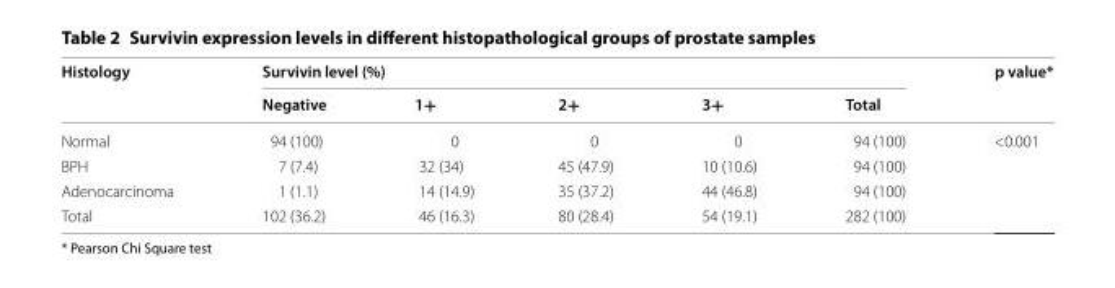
<table><thead><tr><td rowspan="2">Histology</td><td colspan="5">Survivin level (%)</td><td rowspan="2">p value*</td></tr><tr><td>Negative</td><td>1+</td><td>2+</td><td>3+</td><td>Total</td></tr></thead><tbody><tr><td>Normal</td><td>94 (100)</td><td>0</td><td>0</td><td>0</td><td>94 (100)</td><td rowspan="4">&lt;0.001</td></tr><tr><td>BPH</td><td>7 (7.4)</td><td>32 (34)</td><td>45 (47.9)</td><td>10 (10.6)</td><td>94 (100)</td></tr><tr><td>Adenocarcinoma</td><td>1 (1.1)</td><td>14 (14.9)</td><td>35 (37.2)</td><td>44 (46.8)</td><td>94 (100)</td></tr><tr><td>Total</td><td>102 (36.2)</td><td>46 (16.3)</td><td>80 (28.4)</td><td>54 (19.1)</td><td>282 (100)</td></tr></tbody></table>